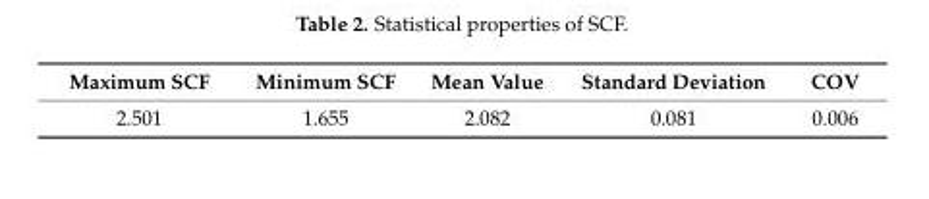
<table><thead><tr><td>Maximum SCF</td><td>Minimum SCF</td><td>Mean Value</td><td>Standard Deviation</td><td>COV</td></tr></thead><tbody><tr><td>2.501</td><td>1.655</td><td>2.082</td><td>0.081</td><td>0.006</td></tr></tbody></table>